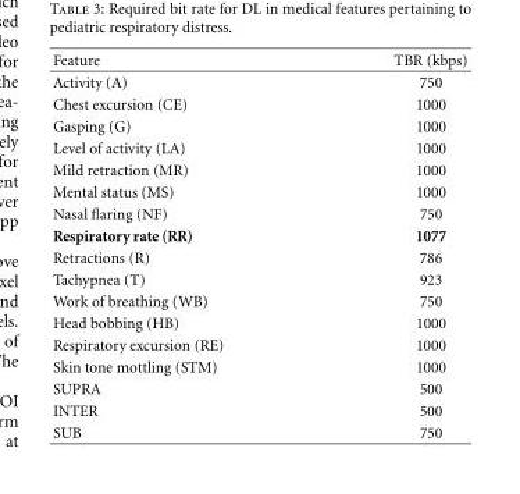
<table><thead><tr><td>Feature</td><td>TBR (kbps)</td></tr></thead><tbody><tr><td>Activity (A)</td><td>750</td></tr><tr><td>Chest excursion (CE)</td><td>1000</td></tr><tr><td>Gasping (G)</td><td>1000</td></tr><tr><td>Level of activity (LA)</td><td>1000</td></tr><tr><td>Mild retraction (MR)</td><td>1000</td></tr><tr><td>Mental status (MS)</td><td>1000</td></tr><tr><td>Nasal flaring (NF)</td><td>750</td></tr><tr><td>Respiratory rate (RR)</td><td>1077</td></tr><tr><td>Retractions (R)</td><td>786</td></tr><tr><td>Tachypnea (T)</td><td>923</td></tr><tr><td>Work of breathing (WB)</td><td>750</td></tr><tr><td>Head bobbing (HB)</td><td>1000</td></tr><tr><td>Respiratory excursion (RE)</td><td>1000</td></tr><tr><td>Skin tone mottling (STM)</td><td>1000</td></tr><tr><td>SUPRA</td><td>500</td></tr><tr><td>INTER</td><td>500</td></tr><tr><td>SUB</td><td>750</td></tr></tbody></table>